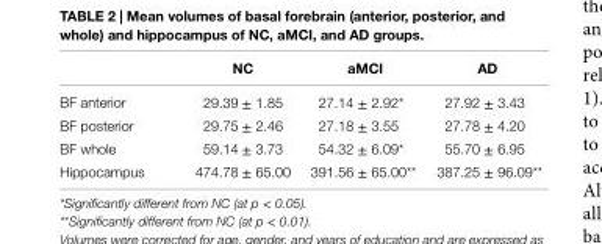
<table><thead><tr><td></td><td>nc</td><td>aMci</td><td>aD</td></tr></thead><tbody><tr><td>BF anterior</td><td>29.39 ± 1.85</td><td>27.14 ± 2.92*</td><td>27.92 ± 3.43</td></tr><tr><td>BF posterior</td><td>29.75 ± 2.46</td><td>27.18 ± 3.55</td><td>27.78 ± 4.20</td></tr><tr><td>BF whole</td><td>59.14 ± 3.73</td><td>54.32 ± 6.09*</td><td>55.70 ± 6.95</td></tr><tr><td>Hippocampus</td><td>474.78 ± 65.00</td><td>391.56 ± 65.00**</td><td>387.25 ± 96.09**</td></tr></tbody></table>